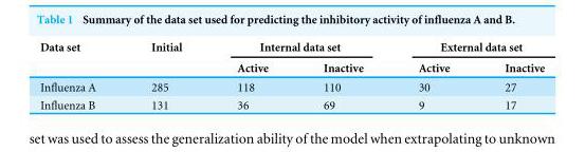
<table><thead><tr><td rowspan="2">Data set</td><td rowspan="2">Initial</td><td colspan="2">Internal data set</td><td colspan="2">External data set</td></tr><tr><td>Active</td><td>Inactive</td><td>Active</td><td>Inactive</td></tr></thead><tbody><tr><td>Influenza A</td><td>285</td><td>118</td><td>110</td><td>30</td><td>27</td></tr><tr><td>Influenza B</td><td>131</td><td>36</td><td>69</td><td>9</td><td>17</td></tr></tbody></table>